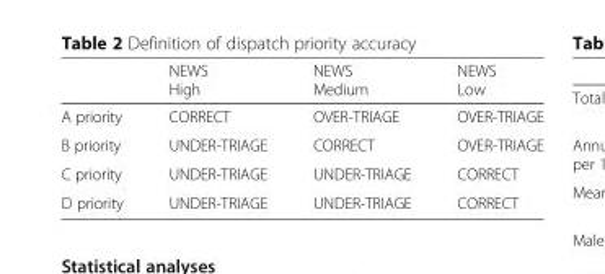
<table><thead><tr><td></td><td>NEWS High</td><td>NEWS Medium</td><td>NEWS Low</td></tr></thead><tbody><tr><td>A priority</td><td>CORRECT</td><td>OVER-TRIAGE</td><td>OVER-TRIAGE</td></tr><tr><td>B priority</td><td>UNDER-TRIAGE</td><td>CORRECT</td><td>OVER-TRIAGE</td></tr><tr><td>C priority</td><td>UNDER-TRIAGE</td><td>UNDER-TRIAGE</td><td>CORRECT</td></tr><tr><td>D priority</td><td>UNDER-TRIAGE</td><td>UNDER-TRIAGE</td><td>CORRECT</td></tr></tbody></table>